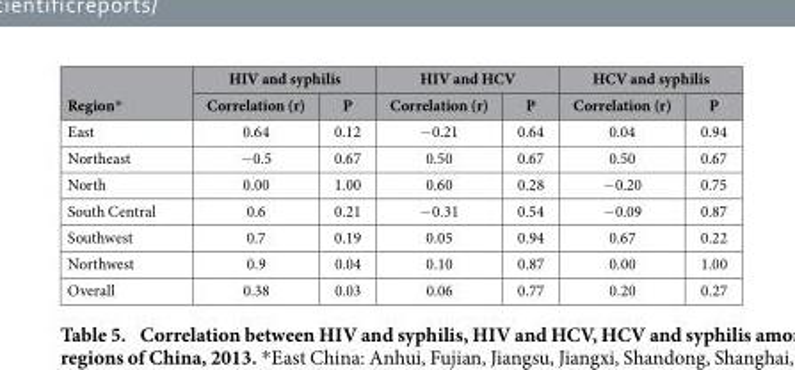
<table><thead><tr><td rowspan="2">Region*</td><td colspan="2">HIV and syphilis</td><td colspan="2">HIV and HCV</td><td colspan="2">HCV and syphilis</td></tr><tr><td>Correlation (r)</td><td>P</td><td>Correlation (r)</td><td>P</td><td>Correlation (r)</td><td>P</td></tr></thead><tbody><tr><td>East</td><td>0.64</td><td>0.12</td><td>− 0.21</td><td>0.64</td><td>0.04</td><td>0.94</td></tr><tr><td>Northeast</td><td>− 0.5</td><td>0.67</td><td>0.50</td><td>0.67</td><td>0.50</td><td>0.67</td></tr><tr><td>North</td><td>0.00</td><td>1.00</td><td>0.60</td><td>0.28</td><td>− 0.20</td><td>0.75</td></tr><tr><td>South Central</td><td>0.6</td><td>0.21</td><td>− 0.31</td><td>0.54</td><td>− 0.09</td><td>0.87</td></tr><tr><td>Southwest</td><td>0.7</td><td>0.19</td><td>0.05</td><td>0.94</td><td>0.67</td><td>0.22</td></tr><tr><td>Northwest</td><td>0.9</td><td>0.04</td><td>0.10</td><td>0.87</td><td>0.00</td><td>1.00</td></tr><tr><td>Overall</td><td>0.38</td><td>0.03</td><td>0.06</td><td>0.77</td><td>0.20</td><td>0.27</td></tr></tbody></table>